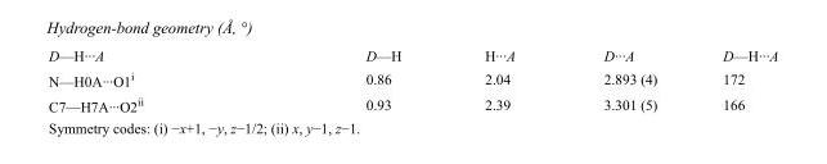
<table><tbody><tr><td>D—H···A</td><td>D—H</td><td>H···A</td><td>D···A</td><td>D—H···A</td></tr><tr><td>N—H0A···O1<sup>i</sup></td><td>0.86</td><td>2.04</td><td>2.893 (4)</td><td>172</td></tr><tr><td>C7—H7A···O2<sup>ii</sup></td><td>0.93</td><td>2.39</td><td>3.301 (5)</td><td>166</td></tr></tbody></table>